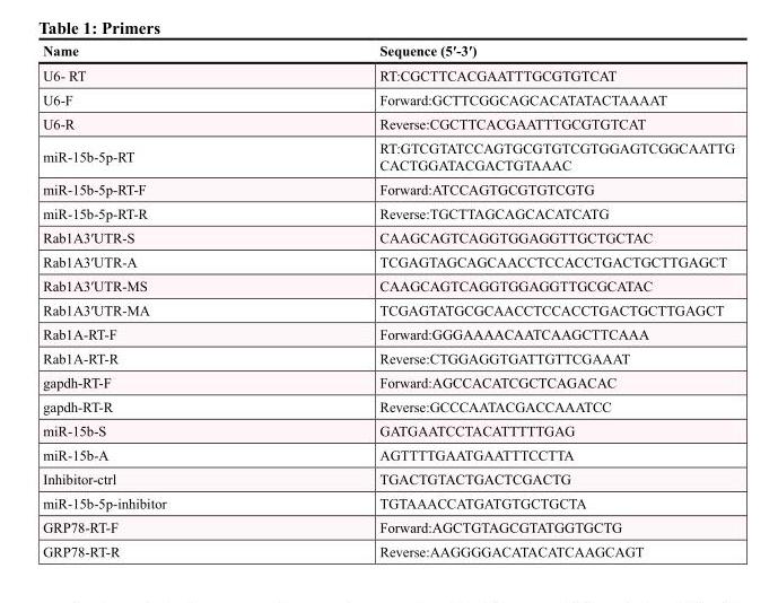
<table><thead><tr><td>Name</td><td>Sequence (5′-3′)</td></tr></thead><tbody><tr><td>U6- RT</td><td>RT:CGCTTCACGAATTTGCGTGTCAT</td></tr><tr><td>U6-F</td><td>Forward:GCTTCGGCAGCACATATACTAAAAT</td></tr><tr><td>U6-R</td><td>Reverse:CGCTTCACGAATTTGCGTGTCAT</td></tr><tr><td>miR-15b-5p-RT</td><td>RT:GTCGTATCCAGTGCGTGTCGTGGAGTCGGCAATTG CACTGGATACGACTGTAAAC</td></tr><tr><td>miR-15b-5p-RT-F</td><td>Forward:ATCCAGTGCGTGTCGTG</td></tr><tr><td>miR-15b-5p-RT-R</td><td>Reverse:TGCTTAGCAGCACATCATG</td></tr><tr><td>Rab1A3′UTR-S</td><td>CAAGCAGTCAGGTGGAGGTTGCTGCTAC</td></tr><tr><td>Rab1A3′UTR-A</td><td>TCGAGTAGCAGCAACCTCCACCTGACTGCTTGAGCT</td></tr><tr><td>Rab1A3′UTR-MS</td><td>CAAGCAGTCAGGTGGAGGTTGCGCATAC</td></tr><tr><td>Rab1A3′UTR-MA</td><td>TCGAGTATGCGCAACCTCCACCTGACTGCTTGAGCT</td></tr><tr><td>Rab1A-RT-F</td><td>Forward:GGGAAAACAATCAAGCTTCAAA</td></tr><tr><td>Rab1A-RT-R</td><td>Reverse:CTGGAGGTGATTGTTCGAAAT</td></tr><tr><td>gapdh-RT-F</td><td>Forward:AGCCACATCGCTCAGACAC</td></tr><tr><td>gapdh-RT-R</td><td>Reverse:GCCCAATACGACCAAATCC</td></tr><tr><td>miR-15b-S</td><td>GATGAATCCTACATTTTTGAG</td></tr><tr><td>miR-15b-A</td><td>AGTTTTGAATGAATTTCCTTA</td></tr><tr><td>Inhibitor-ctrl</td><td>TGACTGTACTGACTCGACTG</td></tr><tr><td>miR-15b-5p-inhibitor</td><td>TGTAAACCATGATGTGCTGCTA</td></tr><tr><td>GRP78-RT-F</td><td>Forward:AGCTGTAGCGTATGGTGCTG</td></tr><tr><td>GRP78-RT-R</td><td>Reverse:AAGGGGACATACATCAAGCAGT</td></tr></tbody></table>